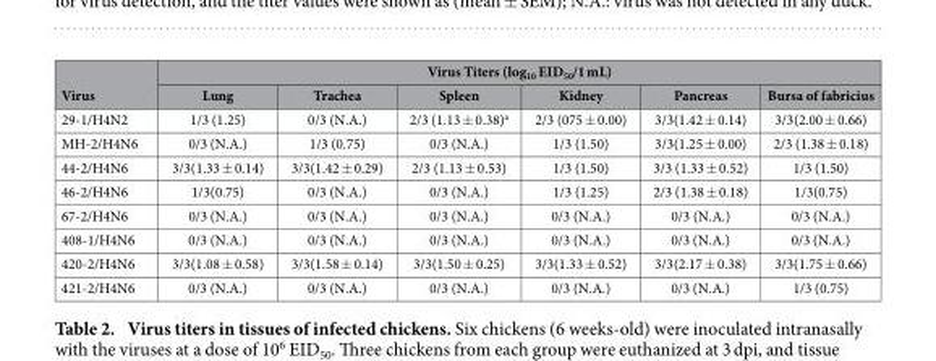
<table><thead><tr><td rowspan="2">Virus</td><td colspan="6">Virus Titers (log<sub>10</sub> EID<sub>50</sub>/1 mL)</td></tr><tr><td>Lung</td><td>Trachea</td><td>Spleen</td><td>Kidney</td><td>Pancreas</td><td>Bursa of fabricius</td></tr></thead><tbody><tr><td>29-1/H4N2</td><td>1/3 (1.25)</td><td>0/3 (N.A.)</td><td>2/3 (1.13 ± 0.38)<sup>a</sup></td><td>2/3 (075 ± 0.00)</td><td>3/3(1.42 ± 0.14)</td><td>3/3(2.00 ± 0.66)</td></tr><tr><td>MH-2/H4N6</td><td>0/3 (N.A.)</td><td>1/3 (0.75)</td><td>0/3 (N.A.)</td><td>1/3 (1.50)</td><td>3/3(1.25 ± 0.00)</td><td>2/3 (1.38 ± 0.18)</td></tr><tr><td>44-2/H4N6</td><td>3/3(1.33 ± 0.14)</td><td>3/3(1.42 ± 0.29)</td><td>2/3 (1.13 ± 0.53)</td><td>1/3 (1.50)</td><td>3/3 (1.33 ± 0.52)</td><td>1/3 (1.50)</td></tr><tr><td>46-2/H4N6</td><td>1/3(0.75)</td><td>0/3 (N.A.)</td><td>0/3 (N.A.)</td><td>1/3 (1.25)</td><td>2/3 (1.38 ± 0.18)</td><td>1/3(0.75)</td></tr><tr><td>67-2/H4N6</td><td>0/3 (N.A.)</td><td>0/3 (N.A.)</td><td>0/3 (N.A.)</td><td>0/3 (N.A.)</td><td>0/3 (N.A.)</td><td>0/3 (N.A.)</td></tr><tr><td>408-1/H4N6</td><td>0/3 (N.A.)</td><td>0/3 (N.A.)</td><td>0/3 (N.A.)</td><td>0/3 (N.A.)</td><td>0/3 (N.A.)</td><td>0/3 (N.A.)</td></tr><tr><td>420-2/H4N6</td><td>3/3(1.08 ± 0.58)</td><td>3/3(1.58 ± 0.14)</td><td>3/3(1.50 ± 0.25)</td><td>3/3(1.33 ± 0.52)</td><td>3/3(2.17 ± 0.38)</td><td>3/3(1.75 ± 0.66)</td></tr><tr><td>421-2/H4N6</td><td>0/3 (N.A.)</td><td>0/3 (N.A.)</td><td>0/3 (N.A.)</td><td>0/3 (N.A.)</td><td>0/3 (N.A.)</td><td>1/3 (0.75)</td></tr></tbody></table>